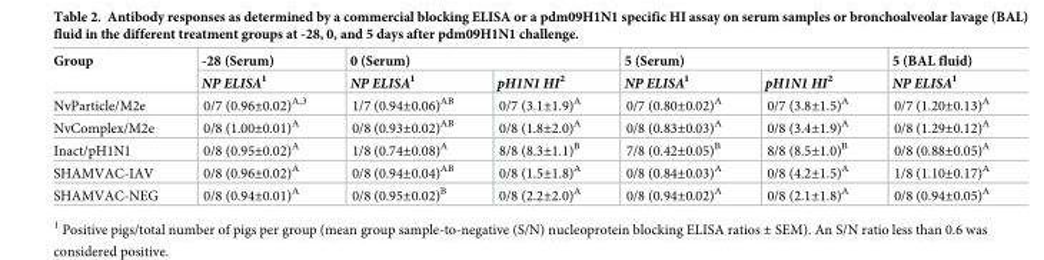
<table><thead><tr><td rowspan="2">Group</td><td rowspan="2">-28 (Serum) NP ELISA<sup>1</sup></td><td colspan="2">0 (Serum)</td><td colspan="2">5 (Serum)</td><td rowspan="2">5 (BAL fluid) NP ELISA<sup>1</sup></td></tr><tr><td>NP ELISA<sup>1</sup></td><td>pH1N1 HI<sup>2</sup></td><td>NP ELISA<sup>1</sup></td><td>pH1N1 HI<sup>2</sup></td></tr></thead><tbody><tr><td>NvParticle/M2e</td><td>0/7 (0.96±0.02)<sup>A,3</sup></td><td>1/7 (0.94±0.06)<sup>AB</sup></td><td>0/7 (3.1±1.9)<sup>A</sup></td><td>0/7 (0.80±0.02)<sup>A</sup></td><td>0/7 (3.8±1.5)<sup>A</sup></td><td>0/7 (1.20±0.13)<sup>A</sup></td></tr><tr><td>NvComplex/M2e</td><td>0/8 (1.00±0.01)<sup>A</sup></td><td>0/8 (0.93±0.02)<sup>AB</sup></td><td>0/8 (1.8±2.0)<sup>A</sup></td><td>0/8 (0.83±0.03)<sup>A</sup></td><td>0/8 (3.4±1.9)<sup>A</sup></td><td>0/8 (1.29±0.12)<sup>A</sup></td></tr><tr><td>Inact/pH1N1</td><td>0/8 (0.95±0.02)<sup>A</sup></td><td>1/8 (0.74±0.08)<sup>A</sup></td><td>8/8 (8.3±1.1)<sup>B</sup></td><td>7/8 (0.42±0.05)<sup>B</sup></td><td>8/8 (8.5±1.0)<sup>B</sup></td><td>0/8 (0.88±0.05)<sup>A</sup></td></tr><tr><td>SHAMVAC-IAV</td><td>0/8 (0.96±0.02)<sup>A</sup></td><td>0/8 (0.94±0.04)<sup>AB</sup></td><td>0/8 (1.5±1.8)<sup>A</sup></td><td>0/8 (0.84±0.03)<sup>A</sup></td><td>0/8 (4.2±1.5)<sup>A</sup></td><td>1/8 (1.10±0.17)<sup>A</sup></td></tr><tr><td>SHAMVAC-NEG</td><td>0/8 (0.94±0.01)<sup>A</sup></td><td>0/8 (0.95±0.02)<sup>B</sup></td><td>0/8 (2.2±2.0)<sup>A</sup></td><td>0/8 (0.94±0.02)<sup>A</sup></td><td>0/8 (2.1±1.8)<sup>A</sup></td><td>0/8 (0.94±0.05)<sup>A</sup></td></tr></tbody></table>